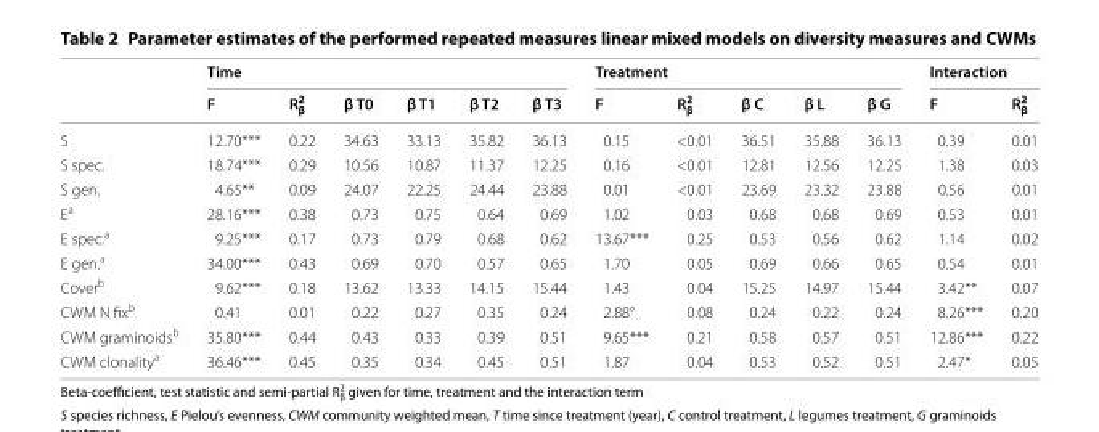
<table><thead><tr><td rowspan="2"></td><td colspan="6">Time</td><td colspan="5">Treatment</td><td colspan="2">Interaction</td></tr><tr><td>F</td><td>R<sub>β</sub> <sup>2</sup></td><td>β T0</td><td>β T1</td><td>β T2</td><td>β T3</td><td>F</td><td>R<sub>β</sub> <sup>2</sup></td><td>β C</td><td>β L</td><td>β G</td><td>F</td><td>R<sub>β</sub> <sup>2</sup></td></tr></thead><tbody><tr><td>S</td><td>12.70***</td><td>0.22</td><td>34.63</td><td>33.13</td><td>35.82</td><td>36.13</td><td>0.15</td><td>&lt;0.01</td><td>36.51</td><td>35.88</td><td>36.13</td><td>0.39</td><td>0.01</td></tr><tr><td>S spec.</td><td>18.74***</td><td>0.29</td><td>10.56</td><td>10.87</td><td>11.37</td><td>12.25</td><td>0.16</td><td>&lt;0.01</td><td>12.81</td><td>12.56</td><td>12.25</td><td>1.38</td><td>0.03</td></tr><tr><td>S gen.</td><td>4.65**</td><td>0.09</td><td>24.07</td><td>22.25</td><td>24.44</td><td>23.88</td><td>0.01</td><td>&lt;0.01</td><td>23.69</td><td>23.32</td><td>23.88</td><td>0.56</td><td>0.01</td></tr><tr><td>E<sup>a</sup></td><td>28.16***</td><td>0.38</td><td>0.73</td><td>0.75</td><td>0.64</td><td>0.69</td><td>1.02</td><td>0.03</td><td>0.68</td><td>0.68</td><td>0.69</td><td>0.53</td><td>0.01</td></tr><tr><td>E spec.<sup>a</sup></td><td>9.25***</td><td>0.17</td><td>0.73</td><td>0.79</td><td>0.68</td><td>0.62</td><td>13.67***</td><td>0.25</td><td>0.53</td><td>0.56</td><td>0.62</td><td>1.14</td><td>0.02</td></tr><tr><td>E gen.<sup>a</sup></td><td>34.00***</td><td>0.43</td><td>0.69</td><td>0.70</td><td>0.57</td><td>0.65</td><td>1.70</td><td>0.05</td><td>0.69</td><td>0.66</td><td>0.65</td><td>0.54</td><td>0.01</td></tr><tr><td>Cover<sup>b</sup></td><td>9.62***</td><td>0.18</td><td>13.62</td><td>13.33</td><td>14.15</td><td>15.44</td><td>1.43</td><td>0.04</td><td>15.25</td><td>14.97</td><td>15.44</td><td>3.42**</td><td>0.07</td></tr><tr><td>CWM N fix<sup>b</sup></td><td>0.41</td><td>0.01</td><td>0.22</td><td>0.27</td><td>0.35</td><td>0.24</td><td>2.88°</td><td>0.08</td><td>0.24</td><td>0.22</td><td>0.24</td><td>8.26***</td><td>0.20</td></tr><tr><td>CWM graminoids<sup>b</sup></td><td>35.80***</td><td>0.44</td><td>0.43</td><td>0.33</td><td>0.39</td><td>0.51</td><td>9.65***</td><td>0.21</td><td>0.58</td><td>0.57</td><td>0.51</td><td>12.86***</td><td>0.22</td></tr><tr><td>CWM clonality<sup>a</sup></td><td>36.46***</td><td>0.45</td><td>0.35</td><td>0.34</td><td>0.45</td><td>0.51</td><td>1.87</td><td>0.04</td><td>0.53</td><td>0.52</td><td>0.51</td><td>2.47*</td><td>0.05</td></tr></tbody></table>